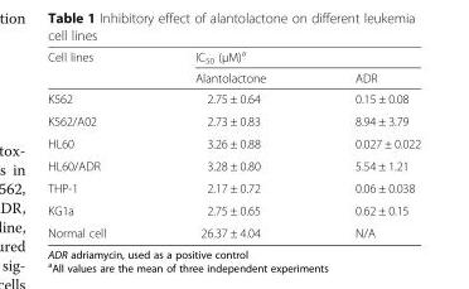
<table><thead><tr><td rowspan="2">Cell lines</td><td colspan="2">IC<sub>50</sub> (μM)<sup>a</sup></td></tr><tr><td>Alantolactone</td><td>ADR</td></tr></thead><tbody><tr><td>K562</td><td>2.75 ± 0.64</td><td>0.15 ± 0.08</td></tr><tr><td>K562/A02</td><td>2.73 ± 0.83</td><td>8.94 ± 3.79</td></tr><tr><td>HL60</td><td>3.26 ± 0.88</td><td>0.027 ± 0.022</td></tr><tr><td>HL60/ADR</td><td>3.28 ± 0.80</td><td>5.54 ± 1.21</td></tr><tr><td>THP-1</td><td>2.17 ± 0.72</td><td>0.06 ± 0.038</td></tr><tr><td>KG1a</td><td>2.75 ± 0.65</td><td>0.62 ± 0.15</td></tr><tr><td>Normal cell</td><td>26.37 ± 4.04</td><td>N/A</td></tr></tbody></table>